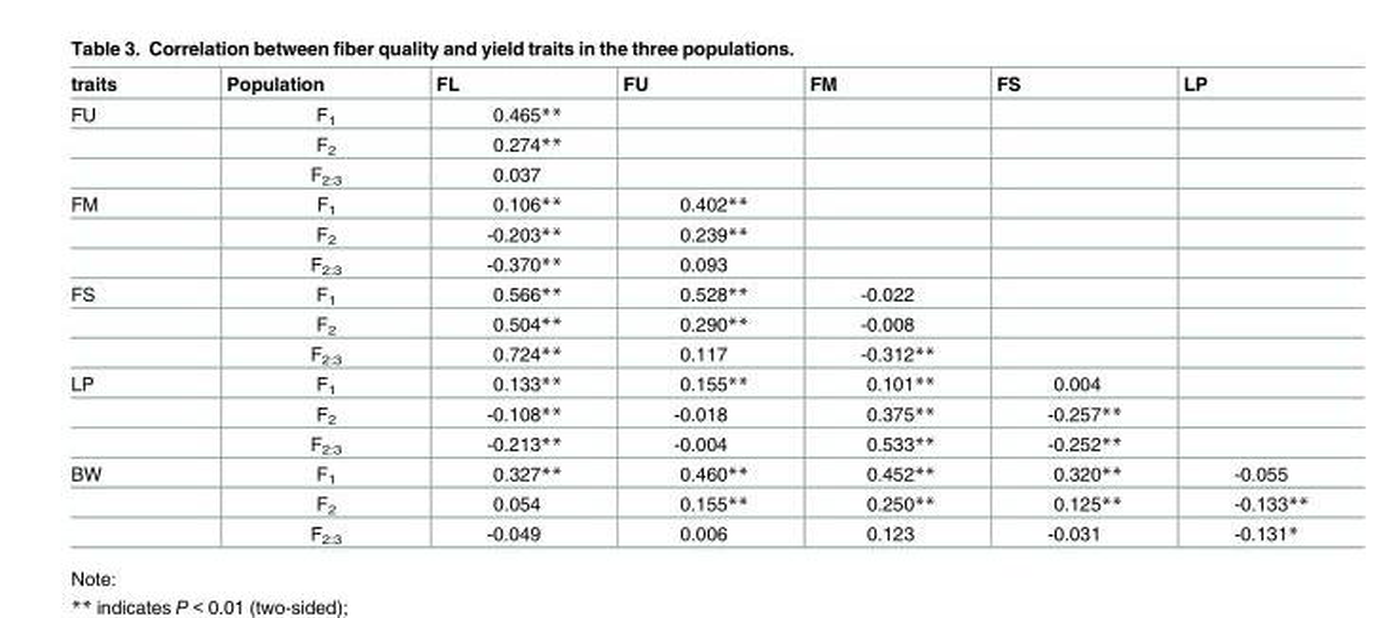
<table><thead><tr><td>traits</td><td>Population</td><td>FL</td><td>FU</td><td>FM</td><td>FS</td><td>LP</td></tr></thead><tbody><tr><td rowspan="3">FU</td><td>F<sub>1</sub></td><td>0.465**</td><td></td><td></td><td></td><td></td></tr><tr><td>F<sub>2</sub></td><td>0.274**</td><td></td><td></td><td></td><td></td></tr><tr><td>F<sub>2:3</sub></td><td>0.037</td><td></td><td></td><td></td><td></td></tr><tr><td rowspan="3">FM</td><td>F<sub>1</sub></td><td>0.106**</td><td>0.402**</td><td></td><td></td><td></td></tr><tr><td>F<sub>2</sub></td><td>-0.203**</td><td>0.239**</td><td></td><td></td><td></td></tr><tr><td>F<sub>2:3</sub></td><td>-0.370**</td><td>0.093</td><td></td><td></td><td></td></tr><tr><td rowspan="3">FS</td><td>F<sub>1</sub></td><td>0.566**</td><td>0.528**</td><td>-0.022</td><td></td><td></td></tr><tr><td>F<sub>2</sub></td><td>0.504**</td><td>0.290**</td><td>-0.008</td><td></td><td></td></tr><tr><td>F<sub>2:3</sub></td><td>0.724**</td><td>0.117</td><td>-0.312**</td><td></td><td></td></tr><tr><td rowspan="3">LP</td><td>F<sub>1</sub></td><td>0.133**</td><td>0.155**</td><td>0.101**</td><td>0.004</td><td></td></tr><tr><td>F<sub>2</sub></td><td>-0.108**</td><td>-0.018</td><td>0.375**</td><td>-0.257**</td><td></td></tr><tr><td>F<sub>2:3</sub></td><td>-0.213**</td><td>-0.004</td><td>0.533**</td><td>-0.252**</td><td></td></tr><tr><td rowspan="3">BW</td><td>F<sub>1</sub></td><td>0.327**</td><td>0.460**</td><td>0.452**</td><td>0.320**</td><td>-0.055</td></tr><tr><td>F<sub>2</sub></td><td>0.054</td><td>0.155**</td><td>0.250**</td><td>0.125**</td><td>-0.133**</td></tr><tr><td>F<sub>2:3</sub></td><td>-0.049</td><td>0.006</td><td>0.123</td><td>-0.031</td><td>-0.131*</td></tr></tbody></table>